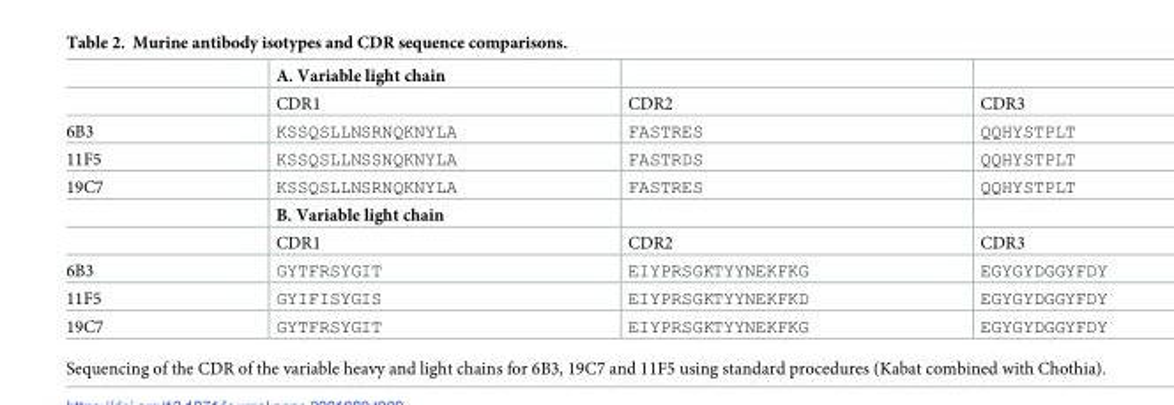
<table><thead><tr><td></td><td>A. Variable light chain</td><td></td><td></td></tr></thead><tbody><tr><td></td><td>CDR1</td><td>CDR2</td><td>CDR3</td></tr><tr><td>6B3</td><td>KSSQSLLNSRNQKNYLA</td><td>FASTRES</td><td>QQHYSTPLT</td></tr><tr><td>11F5</td><td>KSSQSLLNSSNQKNYLA</td><td>FASTRDS</td><td>QQHYSTPLT</td></tr><tr><td rowspan="3">19C7</td><td>KSSQSLLNSRNQKNYLA</td><td>FASTRES</td><td>QQHYSTPLT</td></tr><tr><td>B. Variable light chain</td><td></td><td></td></tr><tr><td>CDR1</td><td>CDR2</td><td>CDR3</td></tr><tr><td>6B3</td><td>GYTFRSYGIT</td><td>EIYPRSGKTYYNEKFKG</td><td>EGYGYDGGYFDY</td></tr><tr><td>11F5</td><td>GYIFISYGIS</td><td>EIYPRSGKTYYNEKFKD</td><td>EGYGYDGGYFDY</td></tr><tr><td>19C7</td><td>GYTFRSYGIT</td><td>EIYPRSGKTYYNEKFKG</td><td>EGYGYDGGYFDY</td></tr></tbody></table>